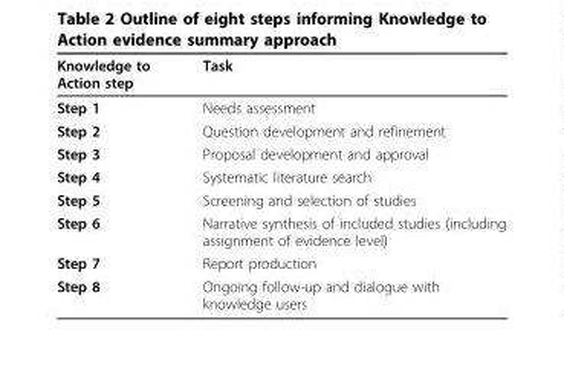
<table><thead><tr><td>Knowledge to Action step</td><td>Task</td></tr></thead><tbody><tr><td>Step 1</td><td>Needs assessment</td></tr><tr><td>Step 2</td><td>Question development and refinement</td></tr><tr><td>Step 3</td><td>Proposal development and approval</td></tr><tr><td>Step 4</td><td>Systematic literature search</td></tr><tr><td>Step 5</td><td>Screening and selection of studies</td></tr><tr><td>Step 6</td><td>Narrative synthesis of included studies (including assignment of evidence level)</td></tr><tr><td>Step 7</td><td>Report production</td></tr><tr><td>Step 8</td><td>Ongoing follow-up and dialogue with knowledge users</td></tr></tbody></table>